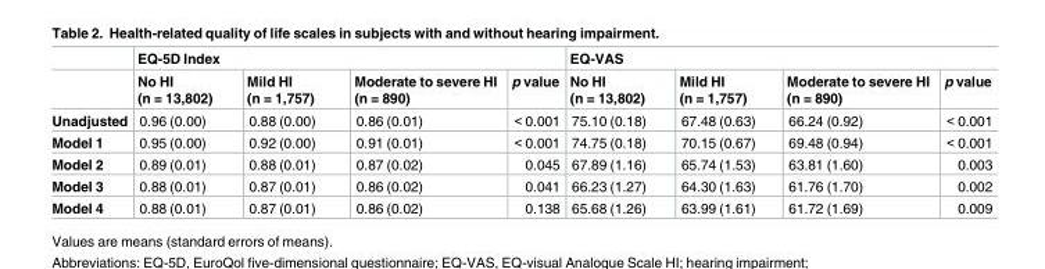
<table><thead><tr><td rowspan="2"></td><td colspan="4">EQ-5D Index</td><td colspan="4">EQ-VAS</td></tr><tr><td>No HI (n = 13,802)</td><td>Mild HI (n = 1,757)</td><td>Moderate to severe HI (n = 890)</td><td>p value</td><td>No HI (n = 13,802)</td><td>Mild HI (n = 1,757)</td><td>Moderate to severe HI (n = 890)</td><td>p value</td></tr></thead><tbody><tr><td>Unadjusted</td><td>0.96 (0.00)</td><td>0.88 (0.00)</td><td>0.86 (0.01)</td><td>&lt; 0.001</td><td>75.10 (0.18)</td><td>67.48 (0.63)</td><td>66.24 (0.92)</td><td>&lt; 0.001</td></tr><tr><td>Model 1</td><td>0.95 (0.00)</td><td>0.92 (0.00)</td><td>0.91 (0.01)</td><td>&lt; 0.001</td><td>74.75 (0.18)</td><td>70.15 (0.67)</td><td>69.48 (0.94)</td><td>&lt; 0.001</td></tr><tr><td>Model 2</td><td>0.89 (0.01)</td><td>0.88 (0.01)</td><td>0.87 (0.02)</td><td>0.045</td><td>67.89 (1.16)</td><td>65.74 (1.53)</td><td>63.81 (1.60)</td><td>0.003</td></tr><tr><td>Model 3</td><td>0.88 (0.01)</td><td>0.87 (0.01)</td><td>0.86 (0.02)</td><td>0.041</td><td>66.23 (1.27)</td><td>64.30 (1.63)</td><td>61.76 (1.70)</td><td>0.002</td></tr><tr><td>Model 4</td><td>0.88 (0.01)</td><td>0.87 (0.01)</td><td>0.86 (0.02)</td><td>0.138</td><td>65.68 (1.26)</td><td>63.99 (1.61)</td><td>61.72 (1.69)</td><td>0.009</td></tr></tbody></table>